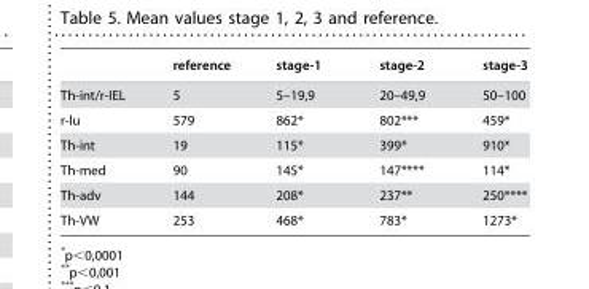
<table><thead><tr><td></td><td>reference</td><td>stage-1</td><td>stage-2</td><td>stage-3</td></tr></thead><tbody><tr><td>Th-int/r-IEL</td><td>5</td><td>5–19,9</td><td>20–49,9</td><td>50–100</td></tr><tr><td>r-lu</td><td>579</td><td>862*</td><td>802***</td><td>459*</td></tr><tr><td>Th-int</td><td>19</td><td>115*</td><td>399*</td><td>910*</td></tr><tr><td>Th-med</td><td>90</td><td>145*</td><td>147****</td><td>114*</td></tr><tr><td>Th-adv</td><td>144</td><td>208*</td><td>237**</td><td>250****</td></tr><tr><td>Th-VW</td><td>253</td><td>468*</td><td>783*</td><td>1273*</td></tr></tbody></table>